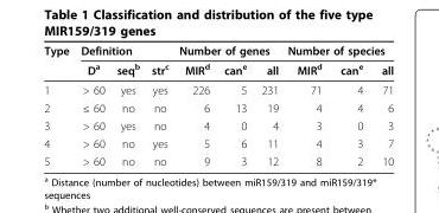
<table><tbody><tr><td rowspan="2">Type</td><td colspan="3">Definition</td><td colspan="3">Number of genes</td><td colspan="3">Number of species</td></tr><tr><td>D<sup>a</sup></td><td>seq<sup>b</sup></td><td>str<sup>c</sup></td><td>MIR<sup>d</sup></td><td>can<sup>e</sup></td><td>all</td><td>MIR<sup>d</sup></td><td>can<sup>e</sup></td><td>all</td></tr><tr><td>1</td><td>&gt; 60</td><td>yes</td><td>yes</td><td>226</td><td>5</td><td>231</td><td>71</td><td>4</td><td>71</td></tr><tr><td>2</td><td>≤ 60</td><td>no</td><td>no</td><td>6</td><td>13</td><td>19</td><td>4</td><td>4</td><td>6</td></tr><tr><td>3</td><td>&gt; 60</td><td>yes</td><td>no</td><td>4</td><td>0</td><td>4</td><td>3</td><td>0</td><td>3</td></tr><tr><td>4</td><td>&gt; 60</td><td>no</td><td>yes</td><td>5</td><td>6</td><td>11</td><td>4</td><td>3</td><td>7</td></tr><tr><td>5</td><td>&gt; 60</td><td>no</td><td>no</td><td>9</td><td>3</td><td>12</td><td>8</td><td>2</td><td>10</td></tr></tbody></table>